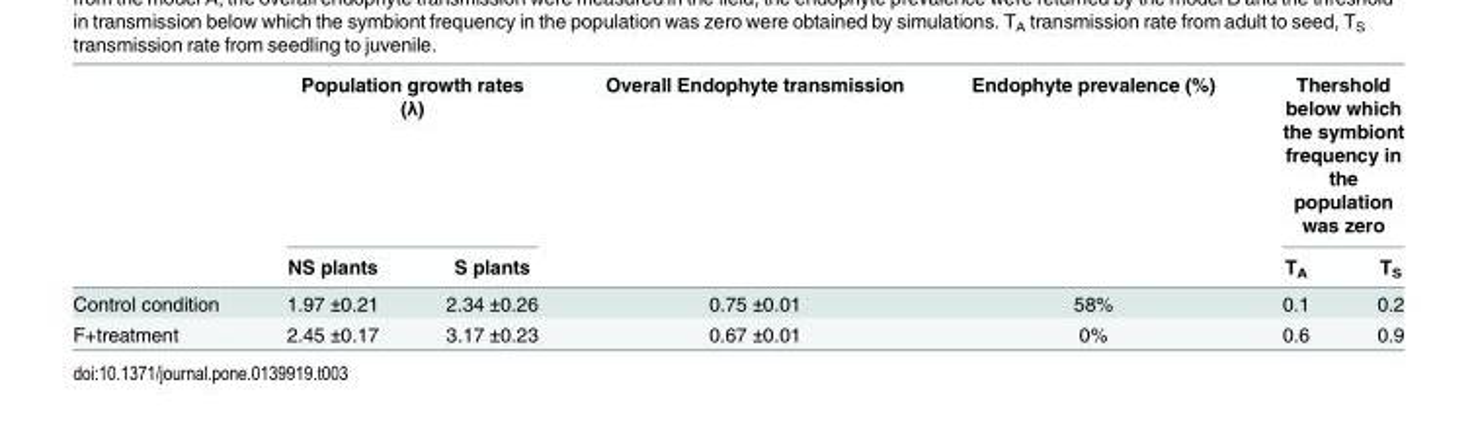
<table><thead><tr><td rowspan="2"></td><td colspan="2">Population growth rates (λ)</td><td rowspan="2">Overall Endophyte transmission</td><td rowspan="2">Endophyte prevalence (%)</td><td colspan="2">Thershold below which the symbiont frequency in the population was zero</td></tr><tr><td>NS plants</td><td>S plants</td><td>T<sub>A</sub></td><td>T<sub>S</sub></td></tr></thead><tbody><tr><td>Control condition</td><td>1.97 ±0.21</td><td>2.34 ±0.26</td><td>0.75 ±0.01</td><td>58%</td><td>0.1</td><td>0.2</td></tr><tr><td>F+treatment</td><td>2.45 ±0.17</td><td>3.17 ±0.23</td><td>0.67 ±0.01</td><td>0%</td><td>0.6</td><td>0.9</td></tr></tbody></table>